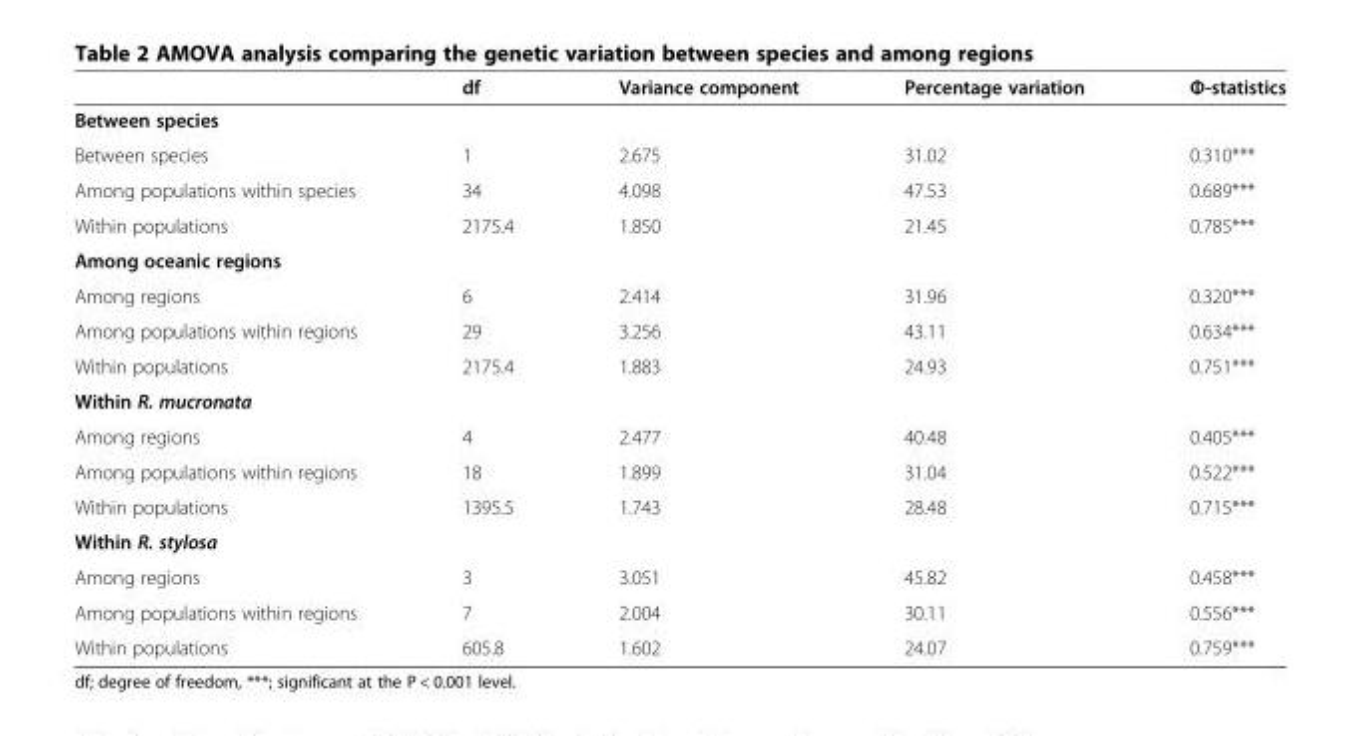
<table><thead><tr><td></td><td>df</td><td>Variance component</td><td>Percentage variation</td><td>Φ-statistics</td></tr></thead><tbody><tr><td colspan="5">Between species</td></tr><tr><td>Between species</td><td>1</td><td>2.675</td><td>31.02</td><td>0.310***</td></tr><tr><td>Among populations within species</td><td>34</td><td>4.098</td><td>47.53</td><td>0.689***</td></tr><tr><td>Within populations</td><td>2175.4</td><td>1.850</td><td>21.45</td><td>0.785***</td></tr><tr><td colspan="5">Among oceanic regions</td></tr><tr><td>Among regions</td><td>6</td><td>2.414</td><td>31.96</td><td>0.320***</td></tr><tr><td>Among populations within regions</td><td>29</td><td>3.256</td><td>43.11</td><td>0.634***</td></tr><tr><td>Within populations</td><td>2175.4</td><td>1.883</td><td>24.93</td><td>0.751***</td></tr><tr><td colspan="5">Within R. mucronata</td></tr><tr><td>Among regions</td><td>4</td><td>2.477</td><td>40.48</td><td>0.405***</td></tr><tr><td>Among populations within regions</td><td>18</td><td>1.899</td><td>31.04</td><td>0.522***</td></tr><tr><td>Within populations</td><td>1395.5</td><td>1.743</td><td>28.48</td><td>0.715***</td></tr><tr><td colspan="5">Within R. stylosa</td></tr><tr><td>Among regions</td><td>3</td><td>3.051</td><td>45.82</td><td>0.458***</td></tr><tr><td>Among populations within regions</td><td>7</td><td>2.004</td><td>30.11</td><td>0.556***</td></tr><tr><td>Within populations</td><td>605.8</td><td>1.602</td><td>24.07</td><td>0.759***</td></tr></tbody></table>